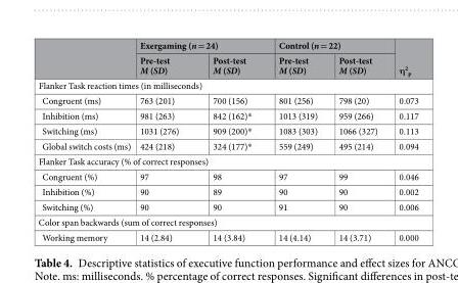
<table><thead><tr><td rowspan="2"></td><td colspan="2">Exergaming (n = 24)</td><td colspan="2">Control (n = 22)</td><td rowspan="2">η<sup>2</sup> <sub>p</sub></td></tr><tr><td>Pre-test M (SD)</td><td>Post-test M (SD)</td><td>Pre-test M (SD)</td><td>Post-test M (SD)</td></tr></thead><tbody><tr><td colspan="6">Flanker Task reaction times (in milliseconds)</td></tr><tr><td>Congruent (ms)</td><td>763 (201)</td><td>700 (156)</td><td>801 (256)</td><td>798 (20)</td><td>0.073</td></tr><tr><td>Inhibition (ms)</td><td>981 (263)</td><td>842 (162)*</td><td>1013 (319)</td><td>959 (266)</td><td>0.117</td></tr><tr><td>Switching (ms)</td><td>1031 (276)</td><td>909 (200)*</td><td>1083 (303)</td><td>1066 (327)</td><td>0.113</td></tr><tr><td>Global switch costs (ms)</td><td>424 (218)</td><td>324 (177)*</td><td>559 (249)</td><td>495 (214)</td><td>0.094</td></tr><tr><td colspan="6">Flanker Task accuracy (% of correct responses)</td></tr><tr><td>Congruent (%)</td><td>97</td><td>98</td><td>97</td><td>99</td><td>0.046</td></tr><tr><td>Inhibition (%)</td><td>90</td><td>89</td><td>90</td><td>90</td><td>0.002</td></tr><tr><td>Switching (%)</td><td>90</td><td>90</td><td>91</td><td>90</td><td>0.006</td></tr><tr><td colspan="6">Color span backwards (sum of correct responses)</td></tr><tr><td>Working memory</td><td>14 (2.84)</td><td>14 (3.84)</td><td>14 (4.14)</td><td>14 (3.71)</td><td>0.000</td></tr></tbody></table>